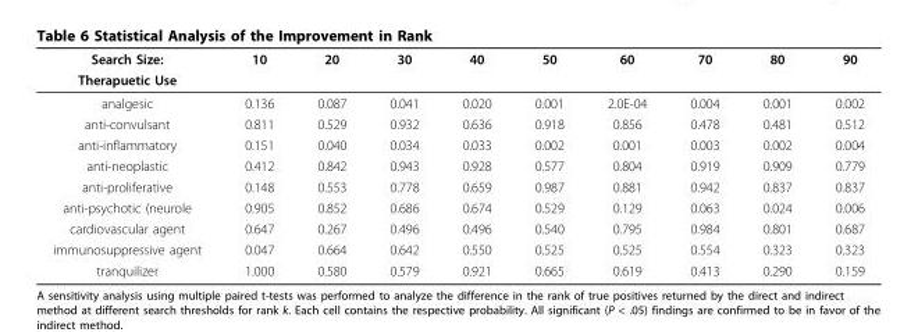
<table><thead><tr><td rowspan="2">Search Size: Therapuetic Use</td><td rowspan="2">10</td><td rowspan="2">20</td><td rowspan="2">30</td><td rowspan="2">40</td><td rowspan="2">50</td><td rowspan="2">60</td><td rowspan="2">70</td><td rowspan="2">80</td><td rowspan="2">90</td></tr><tr></tr></thead><tbody><tr><td>analgesic</td><td>0.136</td><td>0.087</td><td>0.041</td><td>0.020</td><td>0.001</td><td>2.0E-04</td><td>0.004</td><td>0.001</td><td>0.002</td></tr><tr><td>anti-convulsant</td><td>0.811</td><td>0.529</td><td>0.932</td><td>0.636</td><td>0.918</td><td>0.856</td><td>0.478</td><td>0.481</td><td>0.512</td></tr><tr><td>anti-inflammatory</td><td>0.151</td><td>0.040</td><td>0.034</td><td>0.033</td><td>0.002</td><td>0.001</td><td>0.003</td><td>0.002</td><td>0.004</td></tr><tr><td>anti-neoplastic</td><td>0.412</td><td>0.842</td><td>0.943</td><td>0.928</td><td>0.577</td><td>0.804</td><td>0.919</td><td>0.909</td><td>0.779</td></tr><tr><td>anti-proliferative</td><td>0.148</td><td>0.553</td><td>0.778</td><td>0.659</td><td>0.987</td><td>0.881</td><td>0.942</td><td>0.837</td><td>0.837</td></tr><tr><td>anti-psychotic (neurole</td><td>0.905</td><td>0.852</td><td>0.686</td><td>0.674</td><td>0.529</td><td>0.129</td><td>0.063</td><td>0.024</td><td>0.006</td></tr><tr><td>cardiovascular agent</td><td>0.647</td><td>0.267</td><td>0.496</td><td>0.496</td><td>0.540</td><td>0.795</td><td>0.984</td><td>0.801</td><td>0.687</td></tr><tr><td>immunosuppressive agent</td><td>0.047</td><td>0.664</td><td>0.642</td><td>0.550</td><td>0.525</td><td>0.525</td><td>0.554</td><td>0.323</td><td>0.323</td></tr><tr><td>tranquilizer</td><td>1.000</td><td>0.580</td><td>0.579</td><td>0.921</td><td>0.665</td><td>0.619</td><td>0.413</td><td>0.290</td><td>0.159</td></tr></tbody></table>